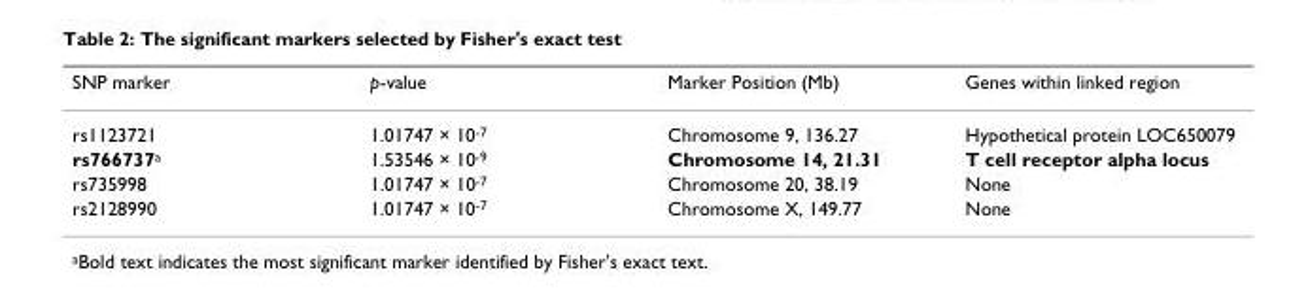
<table><thead><tr><td>SNP marker</td><td>p-value</td><td>Marker Position (Mb)</td><td>Genes within linked region</td></tr></thead><tbody><tr><td>rs1123721</td><td>1.01747 × 10<sup>-7</sup></td><td>Chromosome 9, 136.27</td><td>Hypothetical protein LOC650079</td></tr><tr><td>rs766737<sup>a</sup></td><td>1.53546 × 10<sup>-9</sup></td><td>Chromosome 14, 21.31</td><td>T cell receptor alpha locus</td></tr><tr><td>rs735998</td><td>1.01747 × 10<sup>-7</sup></td><td>Chromosome 20, 38.19</td><td>None</td></tr><tr><td>rs2128990</td><td>1.01747 × 10<sup>-7</sup></td><td>Chromosome X, 149.77</td><td>None</td></tr></tbody></table>